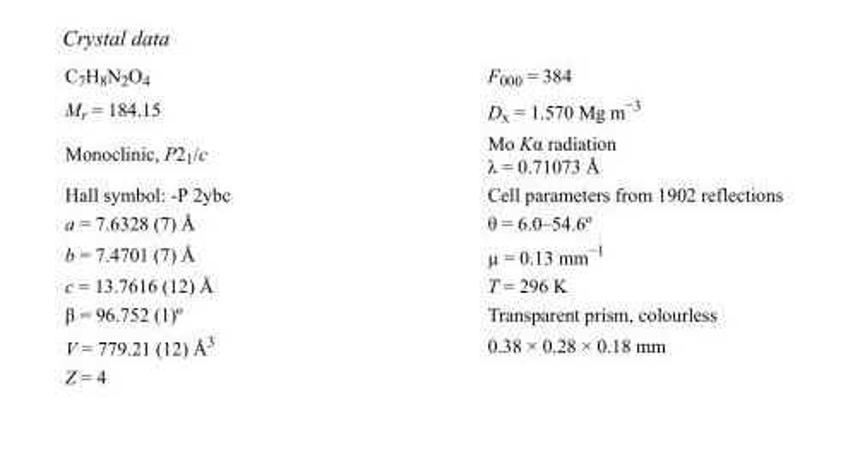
<table><tbody><tr><td>C<sub>7</sub>H<sub>8</sub>N<sub>2</sub>O<sub>4</sub></td><td>F000 = 384</td></tr><tr><td>M<sub>r</sub> = 184.15</td><td>D<sub>x</sub> = 1.570 Mg m<sup>−3</sup></td></tr><tr><td>Monoclinic, P2<sub>1</sub>/c</td><td>Mo Kα radiation λ = 0.71073 Å</td></tr><tr><td>Hall symbol: -P 2ybc</td><td>Cell parameters from 1902 reflections</td></tr><tr><td>a = 7.6328 (7) Å</td><td>θ = 6.0–54.6º</td></tr><tr><td>b = 7.4701 (7) Å</td><td>µ = 0.13 mm<sup>−1</sup></td></tr><tr><td>c = 13.7616 (12) Å</td><td>T = 296 K</td></tr><tr><td>β = 96.752 (1)º</td><td>Transparent prism, colourless</td></tr><tr><td>V = 779.21 (12) Å<sup>3</sup></td><td>0.38 × 0.28 × 0.18 mm</td></tr><tr><td>Z = 4</td><td></td></tr></tbody></table>